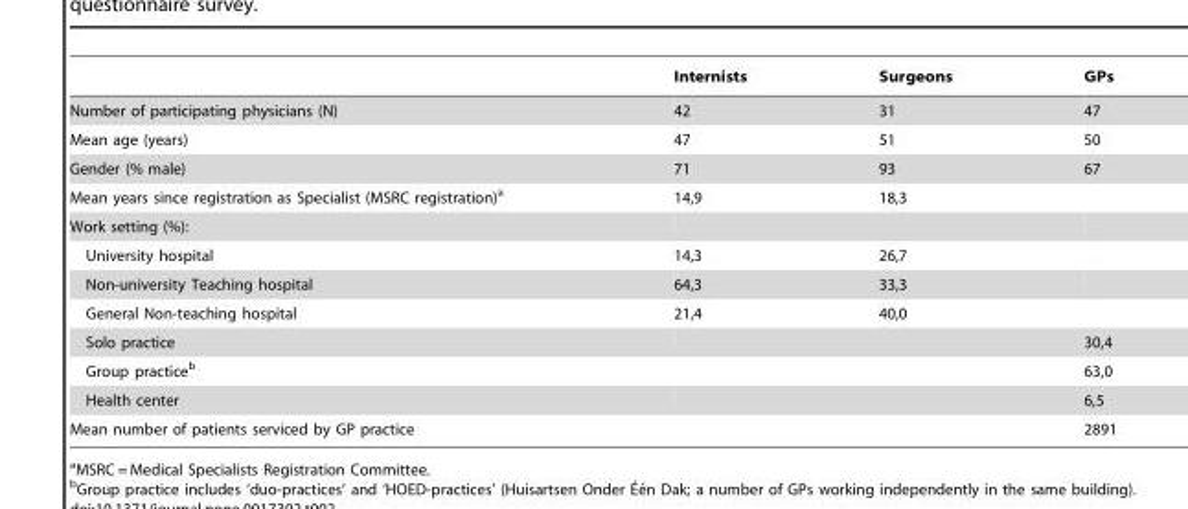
<table><thead><tr><td></td><td>Internists</td><td>Surgeons</td><td>GPs</td></tr></thead><tbody><tr><td>Number of participating physicians (N)</td><td>42</td><td>31</td><td>47</td></tr><tr><td>Mean age (years)</td><td>47</td><td>51</td><td>50</td></tr><tr><td>Gender (% male)</td><td>71</td><td>93</td><td>67</td></tr><tr><td>Mean years since registration as Specialist (MSRC registration)<sup>a</sup></td><td>14,9</td><td>18,3</td><td></td></tr><tr><td colspan="4">Work setting (%):</td></tr><tr><td>University hospital</td><td>14,3</td><td>26,7</td><td></td></tr><tr><td>Non-university Teaching hospital</td><td>64,3</td><td>33,3</td><td></td></tr><tr><td>General Non-teaching hospital</td><td>21,4</td><td>40,0</td><td></td></tr><tr><td>Solo practice</td><td></td><td></td><td>30,4</td></tr><tr><td>Group practice<sup>b</sup></td><td></td><td></td><td>63,0</td></tr><tr><td>Health center</td><td></td><td></td><td>6,5</td></tr><tr><td>Mean number of patients serviced by GP practice</td><td></td><td></td><td>2891</td></tr></tbody></table>